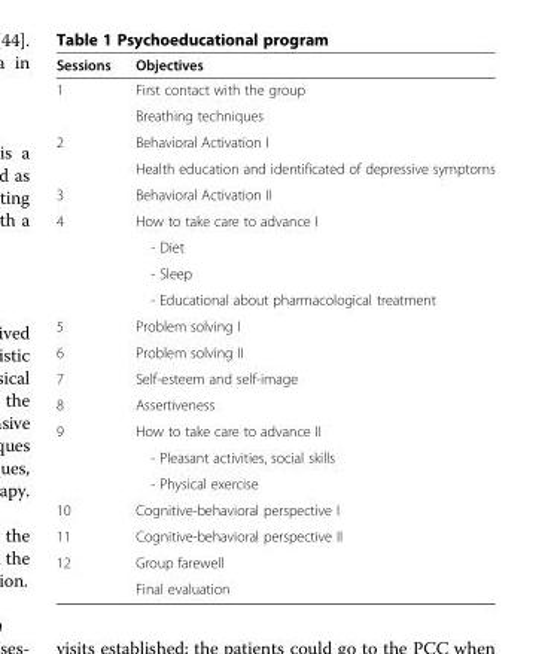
<table><thead><tr><td>Sessions</td><td>Objectives</td></tr></thead><tbody><tr><td rowspan="2">1</td><td>First contact with the group</td></tr><tr><td>Breathing techniques</td></tr><tr><td rowspan="2">2</td><td>Behavioral Activation I</td></tr><tr><td>Health education and identificated of depressive symptoms</td></tr><tr><td>3</td><td>Behavioral Activation II</td></tr><tr><td rowspan="4">4</td><td>How to take care to advance I</td></tr><tr><td>- Diet</td></tr><tr><td>- Sleep</td></tr><tr><td>- Educational about pharmacological treatment</td></tr><tr><td>5</td><td>Problem solving I</td></tr><tr><td>6</td><td>Problem solving II</td></tr><tr><td>7</td><td>Self-esteem and self-image</td></tr><tr><td>8</td><td>Assertiveness</td></tr><tr><td rowspan="3">9</td><td>How to take care to advance II</td></tr><tr><td>- Pleasant activities, social skills</td></tr><tr><td>- Physical exercise</td></tr><tr><td>10</td><td>Cognitive-behavioral perspective I</td></tr><tr><td>11</td><td>Cognitive-behavioral perspective II</td></tr><tr><td rowspan="2">12</td><td>Group farewell</td></tr><tr><td>Final evaluation</td></tr></tbody></table>